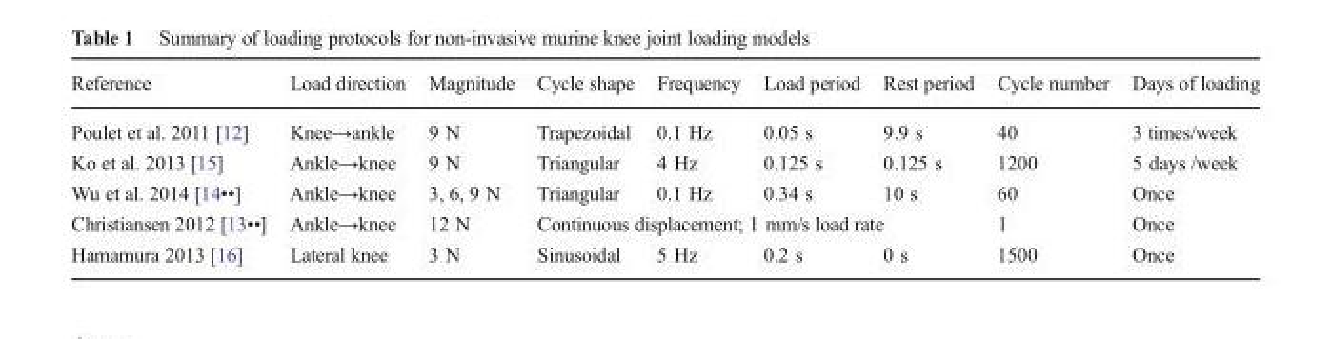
<table><thead><tr><td>Reference</td><td>Load direction</td><td>Magnitude</td><td>Cycle shape</td><td>Frequency</td><td>Load period</td><td>Rest period</td><td>Cycle number</td><td>Days of loading</td></tr></thead><tbody><tr><td>Poulet et al. 2011 [12]</td><td>Knee→ankle</td><td>9 N</td><td>Trapezoidal</td><td>0.1 Hz</td><td>0.05 s</td><td>9.9 s</td><td>40</td><td>3 times/week</td></tr><tr><td>Ko et al. 2013 [15]</td><td>Ankle→knee</td><td>9 N</td><td>Triangular</td><td>4 Hz</td><td>0.125 s</td><td>0.125 s</td><td>1200</td><td>5 days /week</td></tr><tr><td>Wu et al. 2014 [14••]</td><td>Ankle→knee</td><td>3, 6, 9 N</td><td>Triangular</td><td>0.1 Hz</td><td>0.34 s</td><td>10 s</td><td>60</td><td>Once</td></tr><tr><td>Christiansen 2012 [13••]</td><td>Ankle→knee</td><td>12 N</td><td colspan="4">Continuous displacement; 1 mm/s load rate</td><td>1</td><td>Once</td></tr><tr><td>Hamamura 2013 [16]</td><td>Lateral knee</td><td>3 N</td><td>Sinusoidal</td><td>5 Hz</td><td>0.2 s</td><td>0 s</td><td>1500</td><td>Once</td></tr></tbody></table>